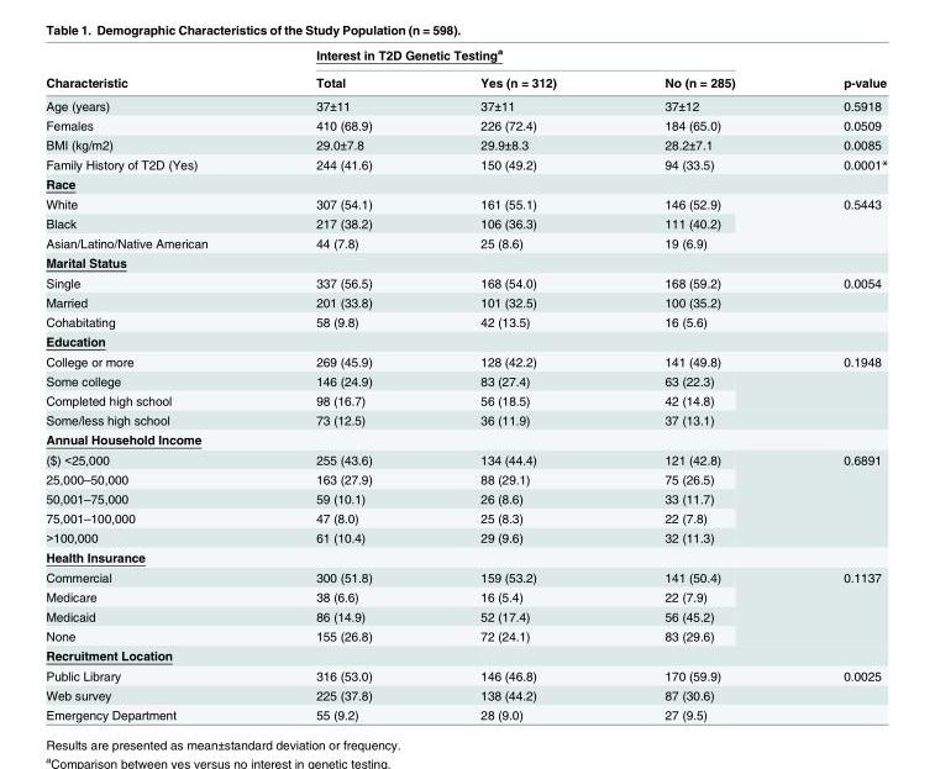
<table><thead><tr><td rowspan="2">Characteristic</td><td colspan="3">Interest in T2D Genetic Testing<sup>a</sup></td><td rowspan="2">p-value</td></tr><tr><td>Total</td><td>Yes (n = 312)</td><td>No (n = 285)</td></tr></thead><tbody><tr><td>Age (years)</td><td>37±11</td><td>37±11</td><td>37±12</td><td>0.5918</td></tr><tr><td>Females</td><td>410 (68.9)</td><td>226 (72.4)</td><td>184 (65.0)</td><td>0.0509</td></tr><tr><td>BMI (kg/m2)</td><td>29.0±7.8</td><td>29.9±8.3</td><td>28.2±7.1</td><td>0.0085</td></tr><tr><td>Family History of T2D (Yes)</td><td>244 (41.6)</td><td>150 (49.2)</td><td>94 (33.5)</td><td>0.0001*</td></tr><tr><td colspan="5">Race</td></tr><tr><td>White</td><td>307 (54.1)</td><td>161 (55.1)</td><td>146 (52.9)</td><td rowspan="3">0.5443</td></tr><tr><td>Black</td><td>217 (38.2)</td><td>106 (36.3)</td><td>111 (40.2)</td></tr><tr><td>Asian/Latino/Native American</td><td>44 (7.8)</td><td>25 (8.6)</td><td>19 (6.9)</td></tr><tr><td colspan="5">Marital Status</td></tr><tr><td>Single</td><td>337 (56.5)</td><td>168 (54.0)</td><td>168 (59.2)</td><td>0.0054</td></tr><tr><td>Married</td><td>201 (33.8)</td><td>101 (32.5)</td><td>100 (35.2)</td><td></td></tr><tr><td>Cohabitating</td><td>58 (9.8)</td><td>42 (13.5)</td><td>16 (5.6)</td><td></td></tr><tr><td colspan="5">Education</td></tr><tr><td>College or more</td><td>269 (45.9)</td><td>128 (42.2)</td><td>141 (49.8)</td><td>0.1948</td></tr><tr><td>Some college</td><td>146 (24.9)</td><td>83 (27.4)</td><td>63 (22.3)</td><td rowspan="2"></td></tr><tr><td>Completed high school</td><td>98 (16.7)</td><td>56 (18.5)</td><td>42 (14.8)</td></tr><tr><td>Some/less high school</td><td>73 (12.5)</td><td>36 (11.9)</td><td>37 (13.1)</td><td></td></tr><tr><td colspan="5">Annual Household Income</td></tr><tr><td>($) &lt;25,000</td><td>255 (43.6)</td><td>134 (44.4)</td><td>121 (42.8)</td><td rowspan="5">0.6891</td></tr><tr><td>25,000–50,000</td><td>163 (27.9)</td><td>88 (29.1)</td><td>75 (26.5)</td></tr><tr><td>50,001–75,000</td><td>59 (10.1)</td><td>26 (8.6)</td><td>33 (11.7)</td></tr><tr><td>75,001–100,000</td><td>47 (8.0)</td><td>25 (8.3)</td><td>22 (7.8)</td></tr><tr><td>&gt;100,000</td><td>61 (10.4)</td><td>29 (9.6)</td><td>32 (11.3)</td></tr><tr><td colspan="5">Health Insurance</td></tr><tr><td>Commercial</td><td>300 (51.8)</td><td>159 (53.2)</td><td>141 (50.4)</td><td rowspan="4">0.1137</td></tr><tr><td>Medicare</td><td>38 (6.6)</td><td>16 (5.4)</td><td>22 (7.9)</td></tr><tr><td>Medicaid</td><td>86 (14.9)</td><td>52 (17.4)</td><td>56 (45.2)</td></tr><tr><td>None</td><td>155 (26.8)</td><td>72 (24.1)</td><td>83 (29.6)</td></tr><tr><td colspan="5">Recruitment Location</td></tr><tr><td>Public Library</td><td>316 (53.0)</td><td>146 (46.8)</td><td>170 (59.9)</td><td>0.0025</td></tr><tr><td>Web survey</td><td>225 (37.8)</td><td>138 (44.2)</td><td>87 (30.6)</td><td></td></tr><tr><td>Emergency Department</td><td>55 (9.2)</td><td>28 (9.0)</td><td>27 (9.5)</td><td></td></tr></tbody></table>